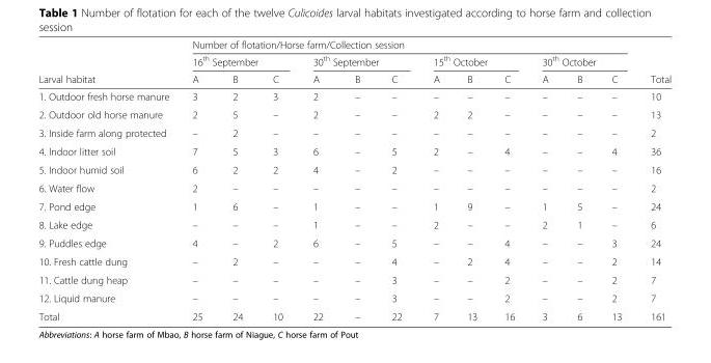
<table><thead><tr><td rowspan="3">Larval habitat</td><td colspan="12">Number of flotation/Horse farm/Collection session</td><td rowspan="3">Total</td></tr><tr><td colspan="3">16<sup>th</sup> September</td><td colspan="3">30<sup>th</sup> September</td><td colspan="3">15<sup>th</sup> October</td><td colspan="3">30<sup>th</sup> October</td></tr><tr><td>A</td><td>B</td><td>C</td><td>A</td><td>B</td><td>C</td><td>A</td><td>B</td><td>C</td><td>A</td><td>B</td><td>C</td></tr></thead><tbody><tr><td>1. Outdoor fresh horse manure</td><td>3</td><td>2</td><td>3</td><td>2</td><td>–</td><td>–</td><td>–</td><td>–</td><td>–</td><td>–</td><td>–</td><td>–</td><td>10</td></tr><tr><td>2. Outdoor old horse manure</td><td>2</td><td>5</td><td>–</td><td>2</td><td>–</td><td>–</td><td>2</td><td>2</td><td>–</td><td>–</td><td>–</td><td>–</td><td>13</td></tr><tr><td>3. Inside farm along protected</td><td>–</td><td>2</td><td>–</td><td>–</td><td>–</td><td>–</td><td>–</td><td>–</td><td>–</td><td>–</td><td>–</td><td>–</td><td>2</td></tr><tr><td>4. Indoor litter soil</td><td>7</td><td>5</td><td>3</td><td>6</td><td>–</td><td>5</td><td>2</td><td>–</td><td>4</td><td>–</td><td>–</td><td>4</td><td>36</td></tr><tr><td>5. Indoor humid soil</td><td>6</td><td>2</td><td>2</td><td>4</td><td>–</td><td>2</td><td>–</td><td>–</td><td>–</td><td>–</td><td>–</td><td>–</td><td>16</td></tr><tr><td>6. Water flow</td><td>2</td><td>–</td><td>–</td><td>–</td><td>–</td><td>–</td><td>–</td><td>–</td><td>–</td><td>–</td><td>–</td><td>–</td><td>2</td></tr><tr><td>7. Pond edge</td><td>1</td><td>6</td><td>–</td><td>1</td><td>–</td><td>–</td><td>1</td><td>9</td><td>–</td><td>1</td><td>5</td><td>–</td><td>24</td></tr><tr><td>8. Lake edge</td><td>–</td><td>–</td><td>–</td><td>1</td><td>–</td><td>–</td><td>2</td><td>–</td><td>–</td><td>2</td><td>1</td><td>–</td><td>6</td></tr><tr><td>9. Puddles edge</td><td>4</td><td>–</td><td>2</td><td>6</td><td>–</td><td>5</td><td>–</td><td>–</td><td>4</td><td>–</td><td>–</td><td>3</td><td>24</td></tr><tr><td>10. Fresh cattle dung</td><td>–</td><td>2</td><td>–</td><td>–</td><td>–</td><td>4</td><td>–</td><td>2</td><td>4</td><td>–</td><td>–</td><td>2</td><td>14</td></tr><tr><td>11. Cattle dung heap</td><td>–</td><td>–</td><td>–</td><td>–</td><td>–</td><td>3</td><td>–</td><td>–</td><td>2</td><td>–</td><td>–</td><td>2</td><td>7</td></tr><tr><td>12. Liquid manure</td><td>–</td><td>–</td><td>–</td><td>–</td><td>–</td><td>3</td><td>–</td><td>–</td><td>2</td><td>–</td><td>–</td><td>2</td><td>7</td></tr><tr><td>Total</td><td>25</td><td>24</td><td>10</td><td>22</td><td>–</td><td>22</td><td>7</td><td>13</td><td>16</td><td>3</td><td>6</td><td>13</td><td>161</td></tr></tbody></table>